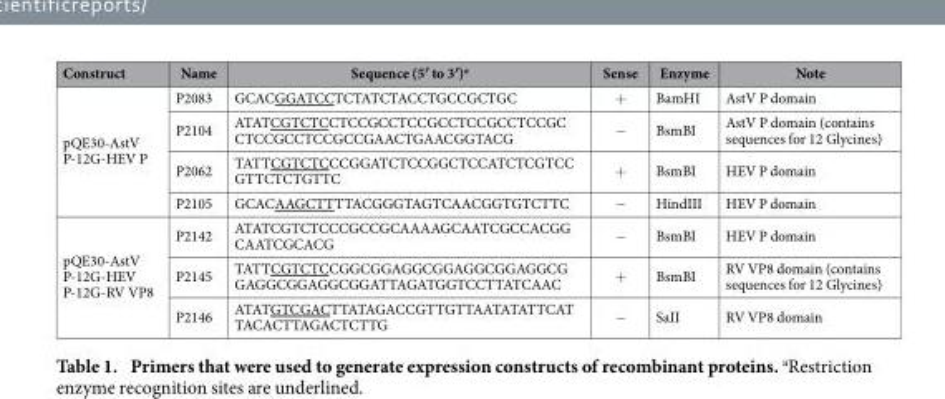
<table><thead><tr><td>Construct</td><td>Name</td><td>Sequence (5′ to 3′)<sup>a</sup></td><td>Sense</td><td>Enzyme</td><td>Note</td></tr></thead><tbody><tr><td rowspan="4">pQE30-AstV P-12G-HEV P</td><td>P2083</td><td>GCACGGATCCTCTATCTACCTGCCGCTGC</td><td>+</td><td>BamHI</td><td>AstV P domain</td></tr><tr><td>P2104</td><td>ATATCGTCTCCTCCGCCTCCGCCTCCGCCTCCGC CTCCGCCTCCGCCGAACTGAACGGTACG</td><td>−</td><td>BsmBI</td><td>AstV P domain (contains sequences for 12 Glycines)</td></tr><tr><td>P2062</td><td>TATTCGTCTCCCGGATCTCCGGCTCCATCTCGTCC GTTCTCTGTTC</td><td>+</td><td>BsmBI</td><td>HEV P domain</td></tr><tr><td>P2105</td><td>GCACAAGCTTTTACGGGTAGTCAACGGTGTCTTC</td><td>−</td><td>HindIII</td><td>HEV P domain</td></tr><tr><td rowspan="3">pQE30-AstV P-12G-HEV P-12G-RV VP8</td><td>P2142</td><td>ATATCGTCTCCCGCCGCAAAAGCAATCGCCACGG CAATCGCACG</td><td>−</td><td>BsmBI</td><td>HEV P domain</td></tr><tr><td>P2145</td><td>TATTCGTCTCCGGCGGAGGCGGAGGCGGAGGCG GAGGCGGAGGCGGATTAGATGGTCCTTATCAAC</td><td>+</td><td>BsmBI</td><td>RV VP8 domain (contains sequences for 12 Glycines)</td></tr><tr><td>P2146</td><td>ATATGTCGACTTATAGACCGTTGTTAATATATTCAT TACACTTAGACTCTTG</td><td>−</td><td>SaII</td><td>RV VP8 domain</td></tr></tbody></table>